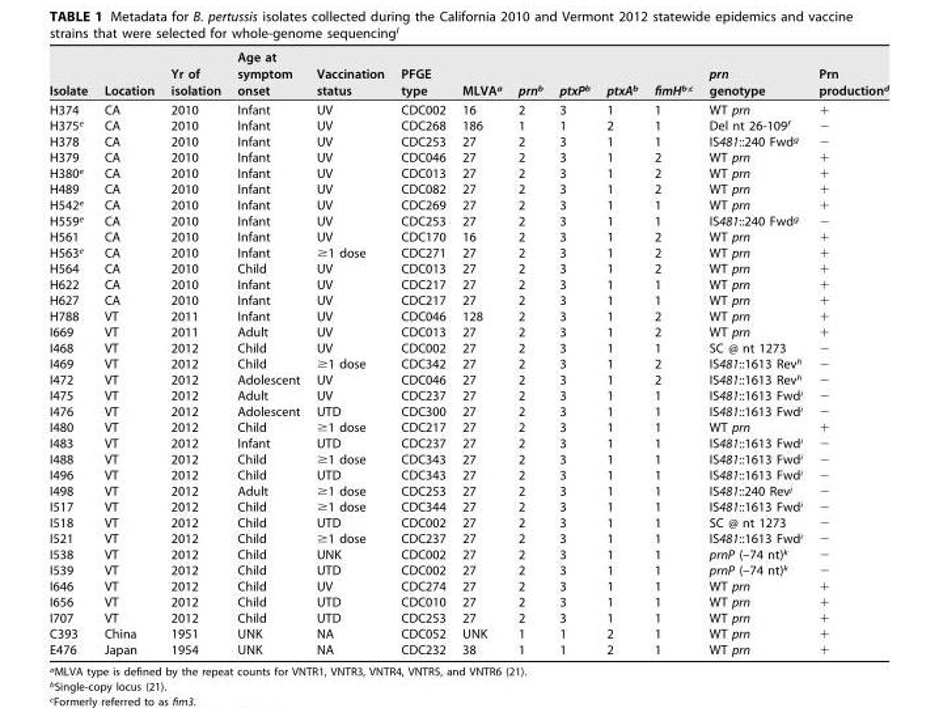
<table><thead><tr><td>Isolate</td><td>Location</td><td>Yr of isolation</td><td>Age at symptom onset</td><td>Vaccination status</td><td>PFGE type</td><td>MLVA<sup>a</sup></td><td>prn<sup>b</sup></td><td>ptxP<sup>b</sup></td><td>ptxA<sup>b</sup></td><td>fimH<sup>b</sup>,<sup>c</sup></td><td>prn genotype</td><td>Prn production<sup>d</sup></td></tr></thead><tbody><tr><td>H374</td><td>CA</td><td>2010</td><td>Infant</td><td>UV</td><td>CDC002</td><td>16</td><td>2</td><td>3</td><td>1</td><td>1</td><td>WT prn</td><td>+</td></tr><tr><td>H375<sup>e</sup></td><td>CA</td><td>2010</td><td>Infant</td><td>UV</td><td>CDC268</td><td>186</td><td>1</td><td>1</td><td>2</td><td>1</td><td>Del nt 26-109<sup>f</sup></td><td>−</td></tr><tr><td>H378</td><td>CA</td><td>2010</td><td>Infant</td><td>UV</td><td>CDC253</td><td>27</td><td>2</td><td>3</td><td>1</td><td>1</td><td>IS481::240 Fwd<sup>g</sup></td><td>−</td></tr><tr><td>H379</td><td>CA</td><td>2010</td><td>Infant</td><td>UV</td><td>CDC046</td><td>27</td><td>2</td><td>3</td><td>1</td><td>2</td><td>WT prn</td><td>+</td></tr><tr><td>H380<sup>e</sup></td><td>CA</td><td>2010</td><td>Infant</td><td>UV</td><td>CDC013</td><td>27</td><td>2</td><td>3</td><td>1</td><td>2</td><td>WT prn</td><td>+</td></tr><tr><td>H489</td><td>CA</td><td>2010</td><td>Infant</td><td>UV</td><td>CDC082</td><td>27</td><td>2</td><td>3</td><td>1</td><td>2</td><td>WT prn</td><td>+</td></tr><tr><td>H542<sup>e</sup></td><td>CA</td><td>2010</td><td>Infant</td><td>UV</td><td>CDC269</td><td>27</td><td>2</td><td>3</td><td>1</td><td>1</td><td>WT prn</td><td>+</td></tr><tr><td>H559<sup>e</sup></td><td>CA</td><td>2010</td><td>Infant</td><td>UV</td><td>CDC253</td><td>27</td><td>2</td><td>3</td><td>1</td><td>1</td><td>IS481::240 Fwd<sup>g</sup></td><td>−</td></tr><tr><td>H561</td><td>CA</td><td>2010</td><td>Infant</td><td>UV</td><td>CDC170</td><td>16</td><td>2</td><td>3</td><td>1</td><td>2</td><td>WT prn</td><td>+</td></tr><tr><td>H563<sup>e</sup></td><td>CA</td><td>2010</td><td>Infant</td><td>≥1 dose</td><td>CDC271</td><td>27</td><td>2</td><td>3</td><td>1</td><td>2</td><td>WT prn</td><td>+</td></tr><tr><td>H564</td><td>CA</td><td>2010</td><td>Child</td><td>UV</td><td>CDC013</td><td>27</td><td>2</td><td>3</td><td>1</td><td>2</td><td>WT prn</td><td>+</td></tr><tr><td>H622</td><td>CA</td><td>2010</td><td>Infant</td><td>UV</td><td>CDC217</td><td>27</td><td>2</td><td>3</td><td>1</td><td>1</td><td>WT prn</td><td>+</td></tr><tr><td>H627</td><td>CA</td><td>2010</td><td>Infant</td><td>UV</td><td>CDC217</td><td>27</td><td>2</td><td>3</td><td>1</td><td>1</td><td>WT prn</td><td>+</td></tr><tr><td>H788</td><td>VT</td><td>2011</td><td>Infant</td><td>UV</td><td>CDC046</td><td>128</td><td>2</td><td>3</td><td>1</td><td>2</td><td>WT prn</td><td>+</td></tr><tr><td>I669</td><td>VT</td><td>2011</td><td>Adult</td><td>UV</td><td>CDC013</td><td>27</td><td>2</td><td>3</td><td>1</td><td>2</td><td>WT prn</td><td>+</td></tr><tr><td>I468</td><td>VT</td><td>2012</td><td>Child</td><td>UV</td><td>CDC002</td><td>27</td><td>2</td><td>3</td><td>1</td><td>1</td><td>SC @ nt 1273</td><td>−</td></tr><tr><td>I469</td><td>VT</td><td>2012</td><td>Child</td><td>≥1 dose</td><td>CDC342</td><td>27</td><td>2</td><td>3</td><td>1</td><td>2</td><td>IS481::1613 Rev<sup>h</sup></td><td>−</td></tr><tr><td>I472</td><td>VT</td><td>2012</td><td>Adolescent</td><td>UV</td><td>CDC046</td><td>27</td><td>2</td><td>3</td><td>1</td><td>2</td><td>IS481::1613 Rev<sup>h</sup></td><td>−</td></tr><tr><td>I475</td><td>VT</td><td>2012</td><td>Adult</td><td>UV</td><td>CDC237</td><td>27</td><td>2</td><td>3</td><td>1</td><td>1</td><td>IS481::1613 Fwd<sup>i</sup></td><td>−</td></tr><tr><td>I476</td><td>VT</td><td>2012</td><td>Adolescent</td><td>UTD</td><td>CDC300</td><td>27</td><td>2</td><td>3</td><td>1</td><td>1</td><td>IS481::1613 Fwd<sup>i</sup></td><td>−</td></tr><tr><td>I480</td><td>VT</td><td>2012</td><td>Child</td><td>≥1 dose</td><td>CDC217</td><td>27</td><td>2</td><td>3</td><td>1</td><td>1</td><td>WT prn</td><td>+</td></tr><tr><td>I483</td><td>VT</td><td>2012</td><td>Infant</td><td>UTD</td><td>CDC237</td><td>27</td><td>2</td><td>3</td><td>1</td><td>1</td><td>IS481::1613 Fwd<sup>i</sup></td><td>−</td></tr><tr><td>I488</td><td>VT</td><td>2012</td><td>Child</td><td>≥1 dose</td><td>CDC343</td><td>27</td><td>2</td><td>3</td><td>1</td><td>1</td><td>IS481::1613 Fwd<sup>i</sup></td><td>−</td></tr><tr><td>I496</td><td>VT</td><td>2012</td><td>Child</td><td>UTD</td><td>CDC343</td><td>27</td><td>2</td><td>3</td><td>1</td><td>1</td><td>IS481::1613 Fwd<sup>i</sup></td><td>−</td></tr><tr><td>I498</td><td>VT</td><td>2012</td><td>Adult</td><td>≥1 dose</td><td>CDC253</td><td>27</td><td>2</td><td>3</td><td>1</td><td>1</td><td>IS481::240 Rev<sup>j</sup></td><td>−</td></tr><tr><td>I517</td><td>VT</td><td>2012</td><td>Child</td><td>≥1 dose</td><td>CDC344</td><td>27</td><td>2</td><td>3</td><td>1</td><td>1</td><td>IS481::1613 Fwd<sup>i</sup></td><td>−</td></tr><tr><td>I518</td><td>VT</td><td>2012</td><td>Child</td><td>UTD</td><td>CDC002</td><td>27</td><td>2</td><td>3</td><td>1</td><td>1</td><td>SC @ nt 1273</td><td>−</td></tr><tr><td>I521</td><td>VT</td><td>2012</td><td>Child</td><td>≥1 dose</td><td>CDC237</td><td>27</td><td>2</td><td>3</td><td>1</td><td>1</td><td>IS481::1613 Fwd<sup>i</sup></td><td>−</td></tr><tr><td>I538</td><td>VT</td><td>2012</td><td>Child</td><td>UNK</td><td>CDC002</td><td>27</td><td>2</td><td>3</td><td>1</td><td>1</td><td>prnP (–74 nt)<sup>k</sup></td><td>−</td></tr><tr><td>I539</td><td>VT</td><td>2012</td><td>Child</td><td>UTD</td><td>CDC002</td><td>27</td><td>2</td><td>3</td><td>1</td><td>1</td><td>prnP (–74 nt)<sup>k</sup></td><td>−</td></tr><tr><td>I646</td><td>VT</td><td>2012</td><td>Child</td><td>UV</td><td>CDC274</td><td>27</td><td>2</td><td>3</td><td>1</td><td>1</td><td>WT prn</td><td>+</td></tr><tr><td>I656</td><td>VT</td><td>2012</td><td>Child</td><td>UTD</td><td>CDC010</td><td>27</td><td>2</td><td>3</td><td>1</td><td>1</td><td>WT prn</td><td>+</td></tr><tr><td>I707</td><td>VT</td><td>2012</td><td>Child</td><td>UTD</td><td>CDC253</td><td>27</td><td>2</td><td>3</td><td>1</td><td>1</td><td>WT prn</td><td>+</td></tr><tr><td>C393</td><td>China</td><td>1951</td><td>UNK</td><td>NA</td><td>CDC052</td><td>UNK</td><td>1</td><td>1</td><td>2</td><td>1</td><td>WT prn</td><td>+</td></tr><tr><td>E476</td><td>Japan</td><td>1954</td><td>UNK</td><td>NA</td><td>CDC232</td><td>38</td><td>1</td><td>1</td><td>2</td><td>1</td><td>WT prn</td><td>+</td></tr></tbody></table>